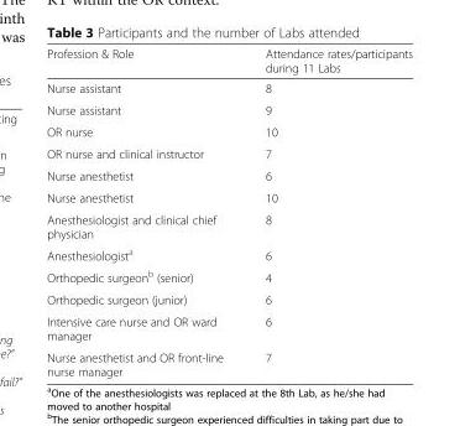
<table><thead><tr><td>Profession &amp; Role</td><td>Attendance rates/participants during 11 Labs</td></tr></thead><tbody><tr><td>Nurse assistant</td><td>8</td></tr><tr><td>Nurse assistant</td><td>9</td></tr><tr><td>OR nurse</td><td>10</td></tr><tr><td>OR nurse and clinical instructor</td><td>7</td></tr><tr><td>Nurse anesthetist</td><td>6</td></tr><tr><td>Nurse anesthetist</td><td>10</td></tr><tr><td>Anesthesiologist and clinical chief physician</td><td>8</td></tr><tr><td>Anesthesiologist<sup>a</sup></td><td>6</td></tr><tr><td>Orthopedic surgeon<sup>b</sup> (senior)</td><td>4</td></tr><tr><td>Orthopedic surgeon (junior)</td><td>6</td></tr><tr><td>Intensive care nurse and OR ward manager</td><td>6</td></tr><tr><td>Nurse anesthetist and OR front-line nurse manager</td><td>7</td></tr></tbody></table>